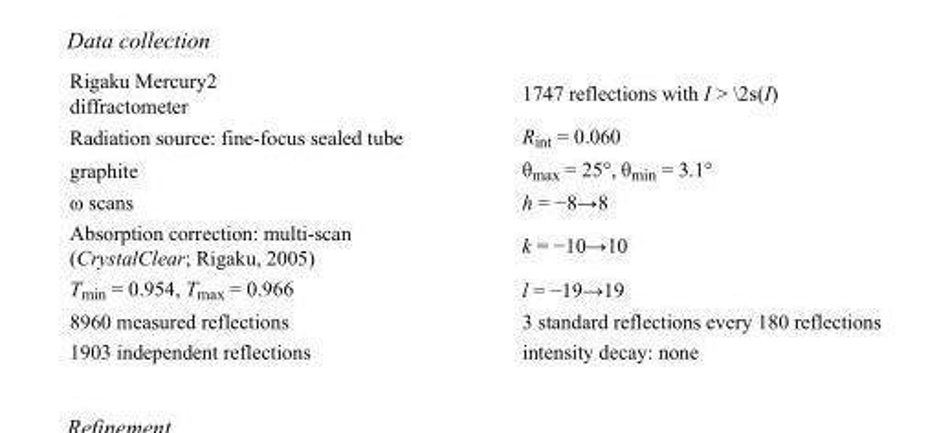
<table><tbody><tr><td>Rigaku Mercury2 diffractometer</td><td>1747 reflections with I &gt; \2s(I)</td></tr><tr><td>Radiation source: fine-focus sealed tube</td><td>R<sub>int</sub> = 0.060</td></tr><tr><td>graphite</td><td>θ<sub>max</sub> = 25°, θ<sub>min</sub> = 3.1°</td></tr><tr><td>ω scans</td><td>h = −8→8</td></tr><tr><td>Absorption correction: multi-scan (CrystalClear; Rigaku, 2005)</td><td>k = −10→10</td></tr><tr><td>T<sub>min</sub> = 0.954, T<sub>max</sub> = 0.966</td><td>l = −19→19</td></tr><tr><td>8960 measured reflections</td><td>3 standard reflections every 180 reflections</td></tr><tr><td>1903 independent reflections</td><td>intensity decay: none</td></tr></tbody></table>